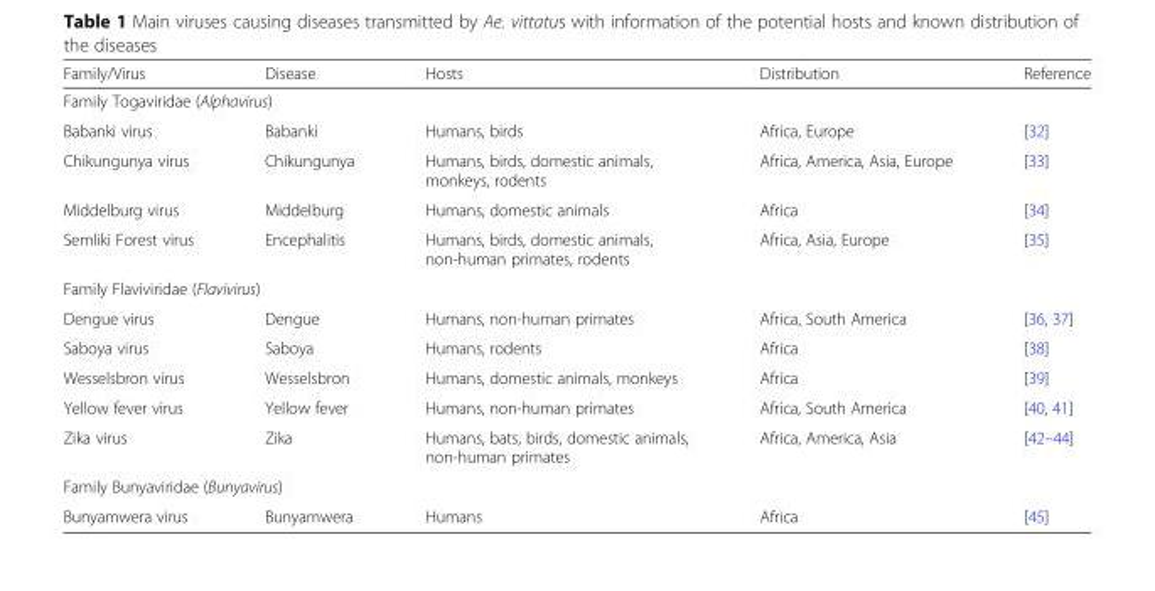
<table><thead><tr><td>Family/Virus</td><td>Disease</td><td>Hosts</td><td>Distribution</td><td>Reference</td></tr></thead><tbody><tr><td colspan="5">Family Togaviridae (Alphavirus)</td></tr><tr><td>Babanki virus</td><td>Babanki</td><td>Humans, birds</td><td>Africa, Europe</td><td>[32]</td></tr><tr><td>Chikungunya virus</td><td>Chikungunya</td><td>Humans, birds, domestic animals, monkeys, rodents</td><td>Africa, America, Asia, Europe</td><td>[33]</td></tr><tr><td>Middelburg virus</td><td>Middelburg</td><td>Humans, domestic animals</td><td>Africa</td><td>[34]</td></tr><tr><td>Semliki Forest virus</td><td>Encephalitis</td><td>Humans, birds, domestic animals, non-human primates, rodents</td><td>Africa, Asia, Europe</td><td>[35]</td></tr><tr><td colspan="5">Family Flaviviridae (Flavivirus)</td></tr><tr><td>Dengue virus</td><td>Dengue</td><td>Humans, non-human primates</td><td>Africa, South America</td><td>[36, 37]</td></tr><tr><td>Saboya virus</td><td>Saboya</td><td>Humans, rodents</td><td>Africa</td><td>[38]</td></tr><tr><td>Wesselsbron virus</td><td>Wesselsbron</td><td>Humans, domestic animals, monkeys</td><td>Africa</td><td>[39]</td></tr><tr><td>Yellow fever virus</td><td>Yellow fever</td><td>Humans, non-human primates</td><td>Africa, South America</td><td>[40, 41]</td></tr><tr><td>Zika virus</td><td>Zika</td><td>Humans, bats, birds, domestic animals, non-human primates</td><td>Africa, America, Asia</td><td>[42–44]</td></tr><tr><td colspan="5">Family Bunyaviridae (Bunyavirus)</td></tr><tr><td>Bunyamwera virus</td><td>Bunyamwera</td><td>Humans</td><td>Africa</td><td>[45]</td></tr></tbody></table>